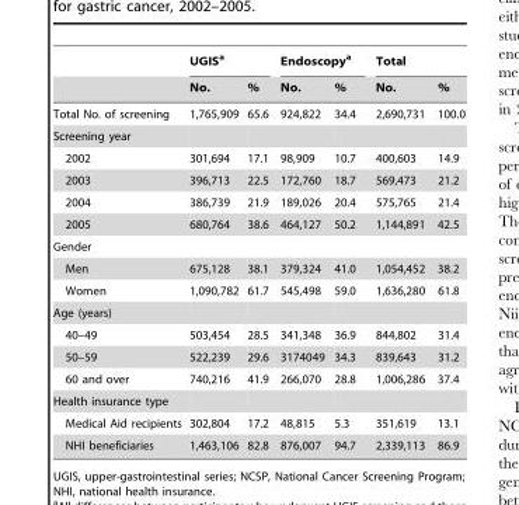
<table><thead><tr><td rowspan="2"></td><td colspan="2">UGIS<sup>a</sup></td><td colspan="2">Endoscopy<sup>a</sup></td><td colspan="2">Total</td></tr><tr><td>No.</td><td>%</td><td>No.</td><td>%</td><td>No.</td><td>%</td></tr></thead><tbody><tr><td>Total No. of screening</td><td>1,765,909</td><td>65.6</td><td>924,822</td><td>34.4</td><td>2,690,731</td><td>100.0</td></tr><tr><td colspan="7">Screening year</td></tr><tr><td>2002</td><td>301,694</td><td>17.1</td><td>98,909</td><td>10.7</td><td>400,603</td><td>14.9</td></tr><tr><td>2003</td><td>396,713</td><td>22.5</td><td>172,760</td><td>18.7</td><td>569,473</td><td>21.2</td></tr><tr><td>2004</td><td>386,739</td><td>21.9</td><td>189,026</td><td>20.4</td><td>575,765</td><td>21.4</td></tr><tr><td>2005</td><td>680,764</td><td>38.6</td><td>464,127</td><td>50.2</td><td>1,144,891</td><td>42.5</td></tr><tr><td colspan="7">Gender</td></tr><tr><td>Men</td><td>675,128</td><td>38.1</td><td>379,324</td><td>41.0</td><td>1,054,452</td><td>38.2</td></tr><tr><td>Women</td><td>1,090,782</td><td>61.7</td><td>545,498</td><td>59.0</td><td>1,636,280</td><td>61.8</td></tr><tr><td colspan="7">Age (years)</td></tr><tr><td>40–49</td><td>503,454</td><td>28.5</td><td>341,348</td><td>36.9</td><td>844,802</td><td>31.4</td></tr><tr><td>50–59</td><td>522,239</td><td>29.6</td><td>3174049</td><td>34.3</td><td>839,643</td><td>31.2</td></tr><tr><td>60 and over</td><td>740,216</td><td>41.9</td><td>266,070</td><td>28.8</td><td>1,006,286</td><td>37.4</td></tr><tr><td colspan="7">Health insurance type</td></tr><tr><td>Medical Aid recipients</td><td>302,804</td><td>17.2</td><td>48,815</td><td>5.3</td><td>351,619</td><td>13.1</td></tr><tr><td>NHI beneficiaries</td><td>1,463,106</td><td>82.8</td><td>876,007</td><td>94.7</td><td>2,339,113</td><td>86.9</td></tr></tbody></table>